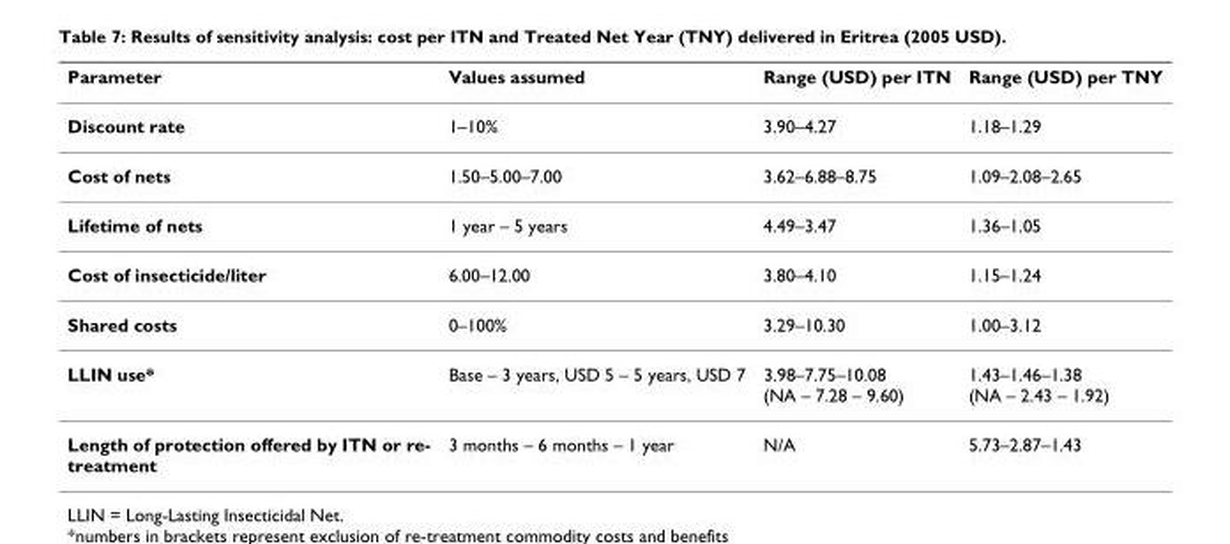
<table><thead><tr><td>Parameter</td><td>Values assumed</td><td>Range (USD) per ITN</td><td>Range (USD) per TNY</td></tr></thead><tbody><tr><td>Discount rate</td><td>1–10%</td><td>3.90–4.27</td><td>1.18–1.29</td></tr><tr><td>Cost of nets</td><td>1.50–5.00–7.00</td><td>3.62–6.88–8.75</td><td>1.09–2.08–2.65</td></tr><tr><td>Lifetime of nets</td><td>1 year – 5 years</td><td>4.49–3.47</td><td>1.36–1.05</td></tr><tr><td>Cost of insecticide/liter</td><td>6.00–12.00</td><td>3.80–4.10</td><td>1.15–1.24</td></tr><tr><td>Shared costs</td><td>0–100%</td><td>3.29–10.30</td><td>1.00–3.12</td></tr><tr><td>LLIN use*</td><td>Base – 3 years, USD 5 – 5 years, USD 7</td><td>3.98–7.75–10.08 (NA – 7.28 – 9.60)</td><td>1.43–1.46–1.38 (NA – 2.43 – 1.92)</td></tr><tr><td>Length of protection offered by ITN or re- treatment</td><td>3 months – 6 months – 1 year</td><td>N/A</td><td>5.73–2.87–1.43</td></tr></tbody></table>